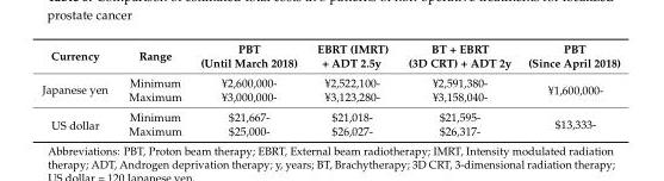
<table><thead><tr><td>Currency</td><td>Range</td><td>PBT (Until March 2018)</td><td>EBRT (IMRT) + ADT 2.5y</td><td>BT + EBRT (3D CRT) + ADT 2y</td><td>PBT (Since April 2018)</td></tr></thead><tbody><tr><td rowspan="2">Japanese yen</td><td>Minimum</td><td>¥2,600,000-</td><td>¥2,522,100-</td><td>¥2,591,380-</td><td rowspan="2">¥1,600,000-</td></tr><tr><td>Maximum</td><td>¥3,000,000-</td><td>¥3,123,280-</td><td>¥3,158,040-</td></tr><tr><td rowspan="2">US dollar</td><td>Minimum</td><td>$21,667-</td><td>$21,018-</td><td>$21,595-</td><td rowspan="2">$13,333-</td></tr><tr><td>Maximum</td><td>$25,000-</td><td>$26,027-</td><td>$26,317-</td></tr></tbody></table>